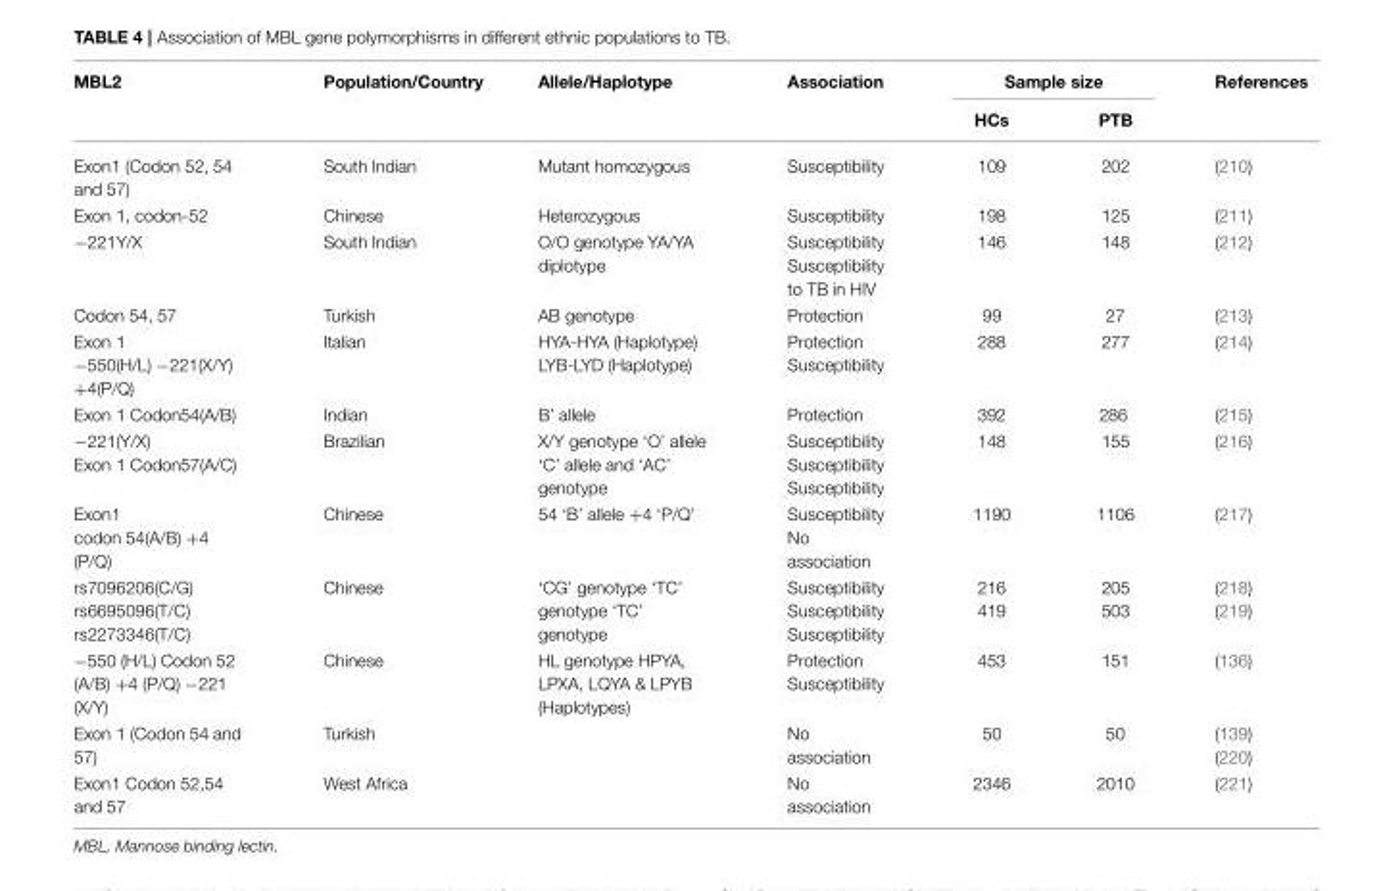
<table><thead><tr><td rowspan="2">MBL2</td><td rowspan="2">Population/Country</td><td rowspan="2">Allele/Haplotype</td><td rowspan="2">Association</td><td colspan="2">Sample size</td><td rowspan="2">References</td></tr><tr><td>HCs</td><td>PTB</td></tr></thead><tbody><tr><td>Exon1 (Codon 52, 54 and 57)</td><td>South Indian</td><td>Mutant homozygous</td><td>Susceptibility</td><td>109</td><td>202</td><td>(210)</td></tr><tr><td>Exon 1, codon-52</td><td>Chinese</td><td>Heterozygous</td><td>Susceptibility</td><td>198</td><td>125</td><td>(211)</td></tr><tr><td>−221Y/X</td><td>South Indian</td><td>O/O genotype YA/YA diplotype</td><td>Susceptibility Susceptibility to TB in HIV</td><td>146</td><td>148</td><td>(212)</td></tr><tr><td>Codon 54, 57</td><td>Turkish</td><td>AB genotype</td><td>Protection</td><td>99</td><td>27</td><td>(213)</td></tr><tr><td>Exon 1 −550(H/L) −221(X/Y) +4(P/Q)</td><td>Italian</td><td>HYA-HYA (Haplotype) LYB-LYD (Haplotype)</td><td>Protection Susceptibility</td><td>288</td><td>277</td><td>(214)</td></tr><tr><td>Exon 1 Codon54(A/B)</td><td>Indian</td><td>B’ allele</td><td>Protection</td><td>392</td><td>286</td><td>(215)</td></tr><tr><td>−221(Y/X) Exon 1 Codon57(A/C)</td><td>Brazilian</td><td>X/Y genotype ‘O’ allele ‘C’ allele and ‘AC’ genotype</td><td>Susceptibility Susceptibility Susceptibility</td><td>148</td><td>155</td><td>(216)</td></tr><tr><td>Exon1 codon 54(A/B) +4 (P/Q)</td><td>Chinese</td><td>54 ‘B’ allele +4 ‘P/Q’</td><td>Susceptibility No association</td><td>1190</td><td>1106</td><td>(217)</td></tr><tr><td>rs7096206(C/G) rs6695096(T/C) rs2273346(T/C)</td><td>Chinese</td><td>‘CG’ genotype ‘TC’ genotype ‘TC’ genotype</td><td>Susceptibility Susceptibility Susceptibility</td><td>216 419</td><td>205 503</td><td>(218) (219)</td></tr><tr><td>−550 (H/L) Codon 52 (A/B) +4 (P/Q) −221 (X/Y)</td><td>Chinese</td><td>HL genotype HPYA, LPXA, LQYA &amp; LPYB (Haplotypes)</td><td>Protection Susceptibility</td><td>453</td><td>151</td><td>(136)</td></tr><tr><td>Exon 1 (Codon 54 and 57)</td><td>Turkish</td><td></td><td>No association</td><td>50</td><td>50</td><td>(139) (220)</td></tr><tr><td>Exon1 Codon 52,54 and 57</td><td>West Africa</td><td></td><td>No association</td><td>2346</td><td>2010</td><td>(221)</td></tr></tbody></table>